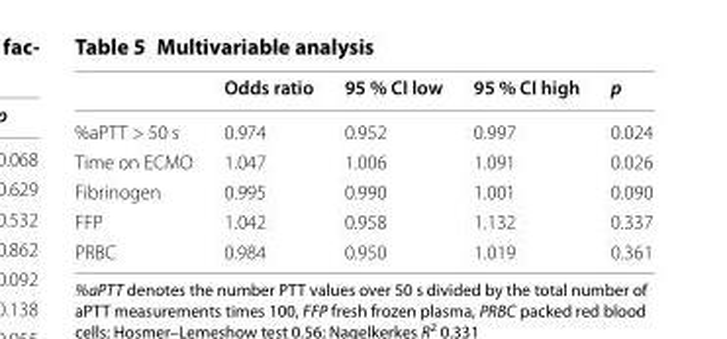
<table><thead><tr><td></td><td>Odds ratio</td><td>95 % CI low</td><td>95 % CI high</td><td>p</td></tr></thead><tbody><tr><td>%aPTT &gt; 50 s</td><td>0.974</td><td>0.952</td><td>0.997</td><td>0.024</td></tr><tr><td>Time on ECMO</td><td>1.047</td><td>1.006</td><td>1.091</td><td>0.026</td></tr><tr><td>Fibrinogen</td><td>0.995</td><td>0.990</td><td>1.001</td><td>0.090</td></tr><tr><td>FFP</td><td>1.042</td><td>0.958</td><td>1.132</td><td>0.337</td></tr><tr><td>PRBC</td><td>0.984</td><td>0.950</td><td>1.019</td><td>0.361</td></tr></tbody></table>